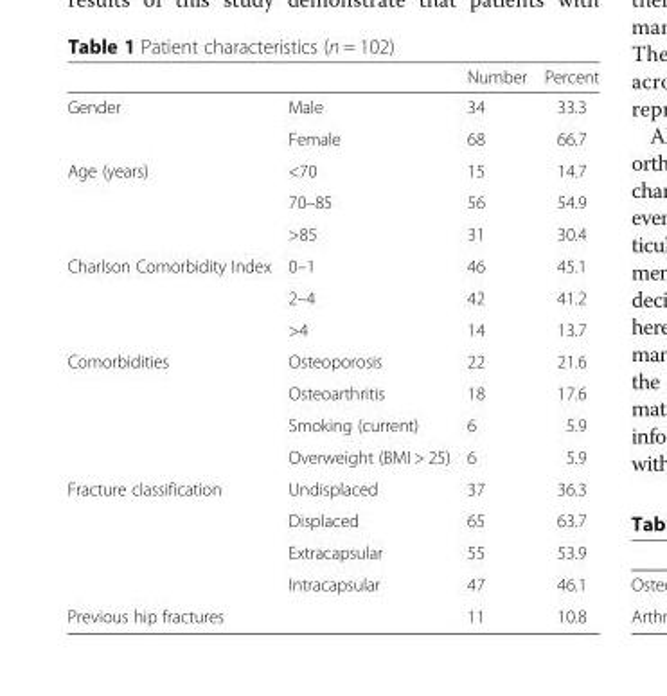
<table><thead><tr><td></td><td></td><td>Number</td><td>Percent</td></tr></thead><tbody><tr><td rowspan="2">Gender</td><td>Male</td><td>34</td><td>33.3</td></tr><tr><td>Female</td><td>68</td><td>66.7</td></tr><tr><td rowspan="3">Age (years)</td><td>&lt;70</td><td>15</td><td>14.7</td></tr><tr><td>70–85</td><td>56</td><td>54.9</td></tr><tr><td>&gt;85</td><td>31</td><td>30.4</td></tr><tr><td rowspan="3">Charlson Comorbidity Index</td><td>0–1</td><td>46</td><td>45.1</td></tr><tr><td>2–4</td><td>42</td><td>41.2</td></tr><tr><td>&gt;4</td><td>14</td><td>13.7</td></tr><tr><td rowspan="4">Comorbidities</td><td>Osteoporosis</td><td>22</td><td>21.6</td></tr><tr><td>Osteoarthritis</td><td>18</td><td>17.6</td></tr><tr><td>Smoking (current)</td><td>6</td><td>5.9</td></tr><tr><td>Overweight (BMI &gt; 25)</td><td>6</td><td>5.9</td></tr><tr><td rowspan="4">Fracture classification</td><td>Undisplaced</td><td>37</td><td>36.3</td></tr><tr><td>Displaced</td><td>65</td><td>63.7</td></tr><tr><td>Extracapsular</td><td>55</td><td>53.9</td></tr><tr><td>Intracapsular</td><td>47</td><td>46.1</td></tr><tr><td>Previous hip fractures</td><td></td><td>11</td><td>10.8</td></tr></tbody></table>